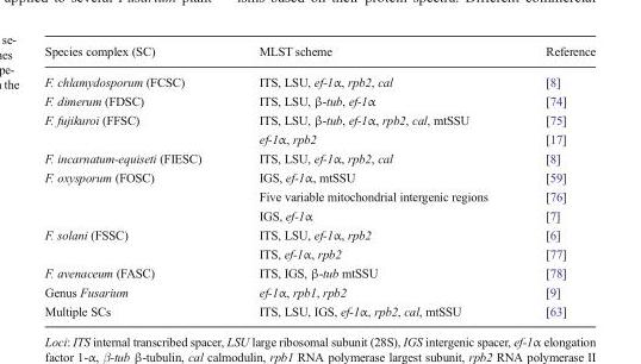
<table><thead><tr><td>Species complex (SC)</td><td>MLST scheme</td><td>Reference</td></tr></thead><tbody><tr><td>F. chlamydosporum (FCSC)</td><td>ITS, LSU, ef-1α, rpb2, cal</td><td>[8]</td></tr><tr><td>F. dimerum (FDSC)</td><td>ITS, LSU, β-tub, ef-1α</td><td>[74]</td></tr><tr><td rowspan="2">F. fujikuroi (FFSC)</td><td>ITS, LSU, β-tub, ef-1α, rpb2, cal, mtSSU</td><td>[75]</td></tr><tr><td>ef-1α, rpb2</td><td>[17]</td></tr><tr><td>F. incarnatum-equiseti (FIESC)</td><td>ITS, LSU, ef-1α, rpb2, cal</td><td>[8]</td></tr><tr><td rowspan="3">F. oxysporum (FOSC)</td><td>IGS, ef-1α, mtSSU</td><td>[59]</td></tr><tr><td>Five variable mitochondrial intergenic regions</td><td>[76]</td></tr><tr><td>IGS, ef-1α</td><td>[7]</td></tr><tr><td rowspan="2">F. solani (FSSC)</td><td>ITS, LSU, ef-1α, rpb2</td><td>[6]</td></tr><tr><td>ITS, ef-1α, rpb2</td><td>[77]</td></tr><tr><td>F. avenaceum (FASC)</td><td>ITS, IGS, β-tub mtSSU</td><td>[78]</td></tr><tr><td>Genus Fusarium</td><td>ef-1α, rpb1, rpb2</td><td>[9]</td></tr><tr><td>Multiple SCs</td><td>ITS, LSU, IGS, ef-1α, rpb2, cal, mtSSU</td><td>[63]</td></tr></tbody></table>